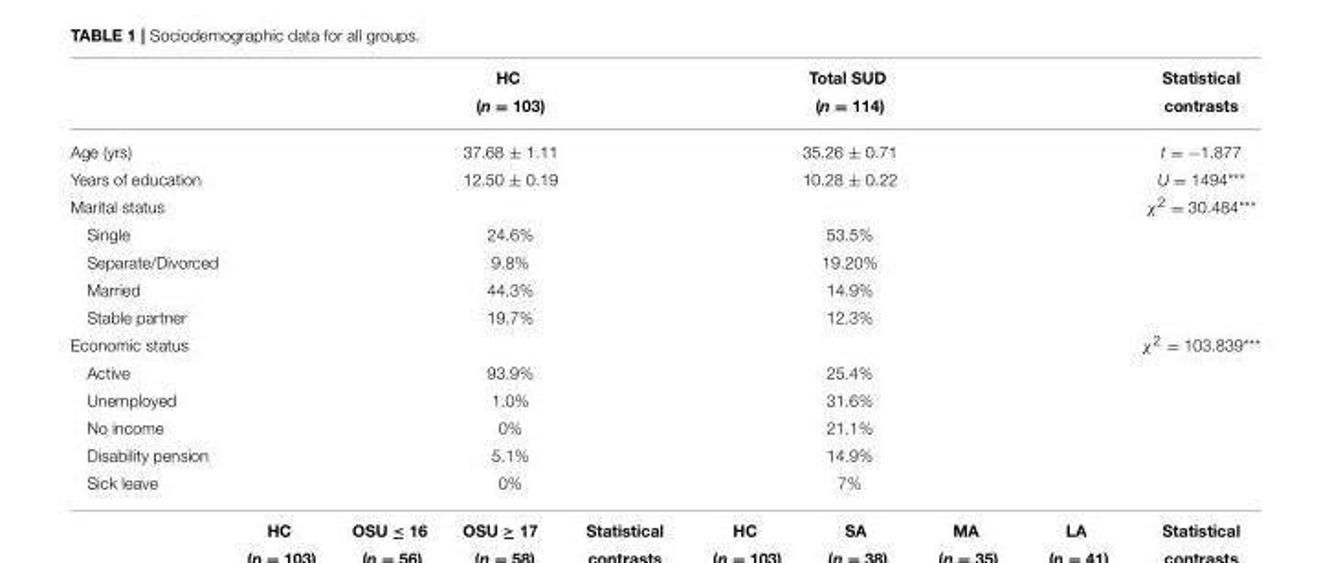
<table><thead><tr><td></td><td>HC (n = 103)</td><td>Total SUD (n = 114)</td><td>Statistical contrasts</td></tr></thead><tbody><tr><td>Age (yrs)</td><td>37.68 ± 1.11</td><td>35.26 ± 0.71</td><td>t = −1.877</td></tr><tr><td>Years of education</td><td>12.50 ± 0.19</td><td>10.28 ± 0.22</td><td>U = 1494***</td></tr><tr><td>Marital status</td><td></td><td></td><td>χ<sup>2</sup> = 30.484***</td></tr><tr><td>Single</td><td>24.6%</td><td>53.5%</td><td></td></tr><tr><td>Separate/Divorced</td><td>9.8%</td><td>19.20%</td><td></td></tr><tr><td>Married</td><td>44.3%</td><td>14.9%</td><td></td></tr><tr><td>Stable partner</td><td>19.7%</td><td>12.3%</td><td></td></tr><tr><td>Economic status</td><td></td><td></td><td>χ<sup>2</sup> = 103.839***</td></tr><tr><td>Active</td><td>93.9%</td><td>25.4%</td><td></td></tr><tr><td>Unemployed</td><td>1.0%</td><td>31.6%</td><td></td></tr><tr><td>No income</td><td>0%</td><td>21.1%</td><td></td></tr><tr><td>Disability pension</td><td>5.1%</td><td>14.9%</td><td></td></tr><tr><td>Sick leave</td><td>0%</td><td>7%</td><td></td></tr></tbody></table>